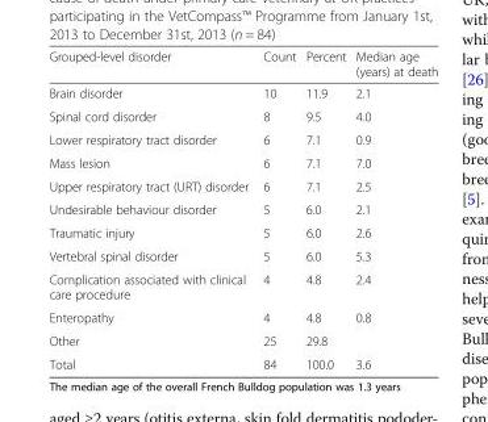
<table><thead><tr><td>Grouped-level disorder</td><td>Count</td><td>Percent</td><td>Median age (years) at death</td></tr></thead><tbody><tr><td>Brain disorder</td><td>10</td><td>11.9</td><td>2.1</td></tr><tr><td>Spinal cord disorder</td><td>8</td><td>9.5</td><td>4.0</td></tr><tr><td>Lower respiratory tract disorder</td><td>6</td><td>7.1</td><td>0.9</td></tr><tr><td>Mass lesion</td><td>6</td><td>7.1</td><td>7.0</td></tr><tr><td>Upper respiratory tract (URT) disorder</td><td>6</td><td>7.1</td><td>2.5</td></tr><tr><td>Undesirable behaviour disorder</td><td>5</td><td>6.0</td><td>2.1</td></tr><tr><td>Traumatic injury</td><td>5</td><td>6.0</td><td>2.6</td></tr><tr><td>Vertebral spinal disorder</td><td>5</td><td>6.0</td><td>5.3</td></tr><tr><td>Complication associated with clinical care procedure</td><td>4</td><td>4.8</td><td>2.4</td></tr><tr><td>Enteropathy</td><td>4</td><td>4.8</td><td>0.8</td></tr><tr><td>Other</td><td>25</td><td>29.8</td><td></td></tr><tr><td>Total</td><td>84</td><td>100.0</td><td>3.6</td></tr></tbody></table>